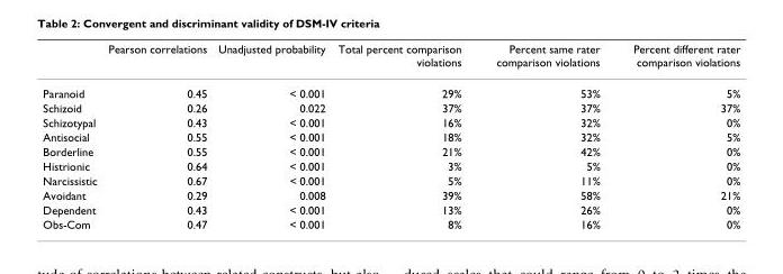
<table><thead><tr><td></td><td>Pearson correlations</td><td>Unadjusted probability</td><td>Total percent comparison violations</td><td>Percent same rater comparison violations</td><td>Percent different rater comparison violations</td></tr></thead><tbody><tr><td>Paranoid</td><td>0.45</td><td>&lt; 0.001</td><td>29%</td><td>53%</td><td>5%</td></tr><tr><td>Schizoid</td><td>0.26</td><td>0.022</td><td>37%</td><td>37%</td><td>37%</td></tr><tr><td>Schizotypal</td><td>0.43</td><td>&lt; 0.001</td><td>16%</td><td>32%</td><td>0%</td></tr><tr><td>Antisocial</td><td>0.55</td><td>&lt; 0.001</td><td>18%</td><td>32%</td><td>5%</td></tr><tr><td>Borderline</td><td>0.55</td><td>&lt; 0.001</td><td>21%</td><td>42%</td><td>0%</td></tr><tr><td>Histrionic</td><td>0.64</td><td>&lt; 0.001</td><td>3%</td><td>5%</td><td>0%</td></tr><tr><td>Narcissistic</td><td>0.67</td><td>&lt; 0.001</td><td>5%</td><td>11%</td><td>0%</td></tr><tr><td>Avoidant</td><td>0.29</td><td>0.008</td><td>39%</td><td>58%</td><td>21%</td></tr><tr><td>Dependent</td><td>0.43</td><td>&lt; 0.001</td><td>13%</td><td>26%</td><td>0%</td></tr><tr><td>Obs-Com</td><td>0.47</td><td>&lt; 0.001</td><td>8%</td><td>16%</td><td>0%</td></tr></tbody></table>